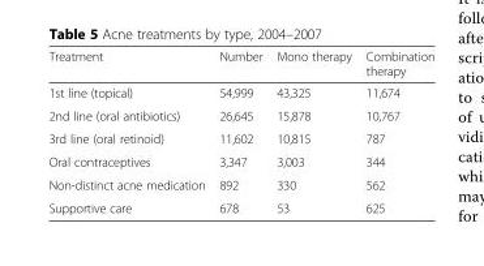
<table><thead><tr><td>Treatment</td><td>Number</td><td>Mono therapy</td><td>Combination therapy</td></tr></thead><tbody><tr><td>1st line (topical)</td><td>54,999</td><td>43,325</td><td>11,674</td></tr><tr><td>2nd line (oral antibiotics)</td><td>26,645</td><td>15,878</td><td>10,767</td></tr><tr><td>3rd line (oral retinoid)</td><td>11,602</td><td>10,815</td><td>787</td></tr><tr><td>Oral contraceptives</td><td>3,347</td><td>3,003</td><td>344</td></tr><tr><td>Non-distinct acne medication</td><td>892</td><td>330</td><td>562</td></tr><tr><td>Supportive care</td><td>678</td><td>53</td><td>625</td></tr></tbody></table>